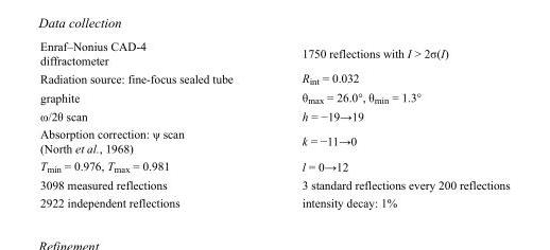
<table><tbody><tr><td>Enraf–Nonius CAD-4 diffractometer</td><td>1750 reflections with I &gt; 2σ(I)</td></tr><tr><td>Radiation source: fine-focus sealed tube</td><td>R<sub>int</sub> = 0.032</td></tr><tr><td>graphite</td><td>θ<sub>max</sub> = 26.0°, θ<sub>min</sub> = 1.3°</td></tr><tr><td>ω/2θ scan</td><td>h = −19→19</td></tr><tr><td>Absorption correction: ψ scan (North et al., 1968)</td><td>k = −11→0</td></tr><tr><td>T<sub>min</sub> = 0.976, T<sub>max</sub> = 0.981</td><td>l = 0→12</td></tr><tr><td>3098 measured reflections</td><td>3 standard reflections every 200 reflections</td></tr><tr><td>2922 independent reflections</td><td>intensity decay: 1%</td></tr></tbody></table>